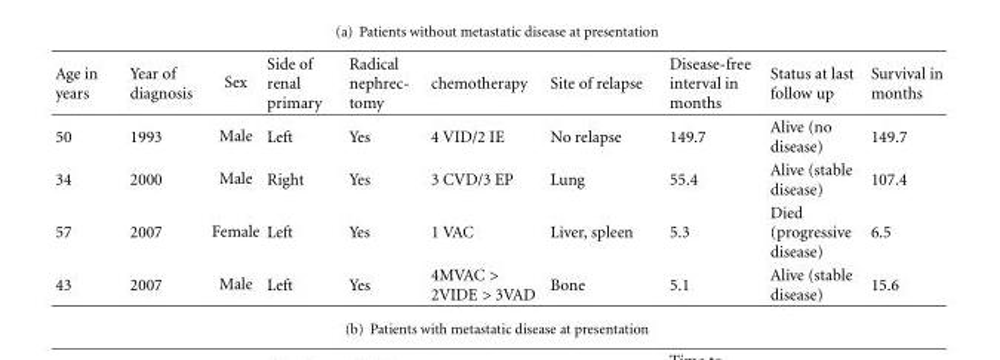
<table><thead><tr><td>Age in years</td><td>Year of diagnosis</td><td>Sex</td><td>Side of renal primary</td><td>Radical nephrec- tomy</td><td>chemotherapy</td><td>Site of relapse</td><td>Disease-free interval in months</td><td>Status at last follow up</td><td>Survival in months</td></tr></thead><tbody><tr><td>50</td><td>1993</td><td>Male</td><td>Left</td><td>Yes</td><td>4 VID/2 IE</td><td>No relapse</td><td>149.7</td><td>Alive (no disease)</td><td>149.7</td></tr><tr><td>34</td><td>2000</td><td>Male</td><td>Right</td><td>Yes</td><td>3 CVD/3 EP</td><td>Lung</td><td>55.4</td><td>Alive (stable disease)</td><td>107.4</td></tr><tr><td>57</td><td>2007</td><td>Female</td><td>Left</td><td>Yes</td><td>1 VAC</td><td>Liver, spleen</td><td>5.3</td><td>Died (progressive disease)</td><td>6.5</td></tr><tr><td>43</td><td>2007</td><td>Male</td><td>Left</td><td>Yes</td><td>4MVAC &gt; 2VIDE &gt; 3VAD</td><td>Bone</td><td>5.1</td><td>Alive (stable disease)</td><td>15.6</td></tr></tbody></table>